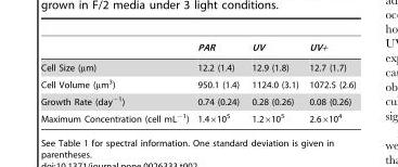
<table><thead><tr><td></td><td>PAR</td><td>UV</td><td>UV+</td></tr></thead><tbody><tr><td>Cell Size (µm)</td><td>12.2 (1.4)</td><td>12.9 (1.8)</td><td>12.7 (1.7)</td></tr><tr><td>Cell Volume (µm<sup>3</sup>)</td><td>950.1 (1.4)</td><td>1124.0 (3.1)</td><td>1072.5 (2.6)</td></tr><tr><td>Growth Rate (day<sup>−1</sup>)</td><td>0.74 (0.24)</td><td>0.28 (0.26)</td><td>0.08 (0.26)</td></tr><tr><td>Maximum Concentration (cell mL<sup>−1</sup>)</td><td>1.4×10<sup>5</sup></td><td>1.2×10<sup>5</sup></td><td>2.6×10<sup>4</sup></td></tr></tbody></table>